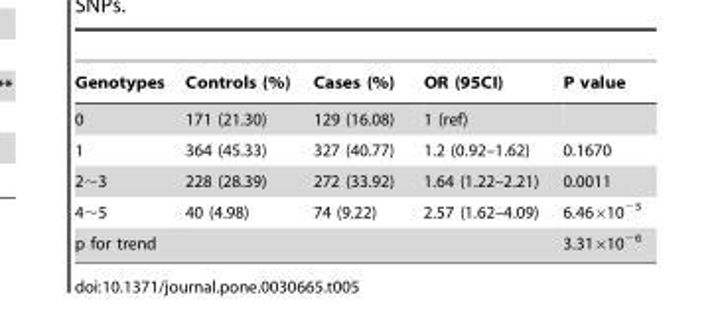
<table><thead><tr><td>Genotypes</td><td>Controls (%)</td><td>Cases (%)</td><td>OR (95CI)</td><td>P value</td></tr></thead><tbody><tr><td>0</td><td>171 (21.30)</td><td>129 (16.08)</td><td>1 (ref)</td><td></td></tr><tr><td>1</td><td>364 (45.33)</td><td>327 (40.77)</td><td>1.2 (0.92–1.62)</td><td>0.1670</td></tr><tr><td>2∼3</td><td>228 (28.39)</td><td>272 (33.92)</td><td>1.64 (1.22–2.21)</td><td>0.0011</td></tr><tr><td>4∼5</td><td>40 (4.98)</td><td>74 (9.22)</td><td>2.57 (1.62–4.09)</td><td>6.46×10<sup>−5</sup></td></tr><tr><td>p for trend</td><td></td><td></td><td></td><td>3.31×10<sup>−6</sup></td></tr></tbody></table>